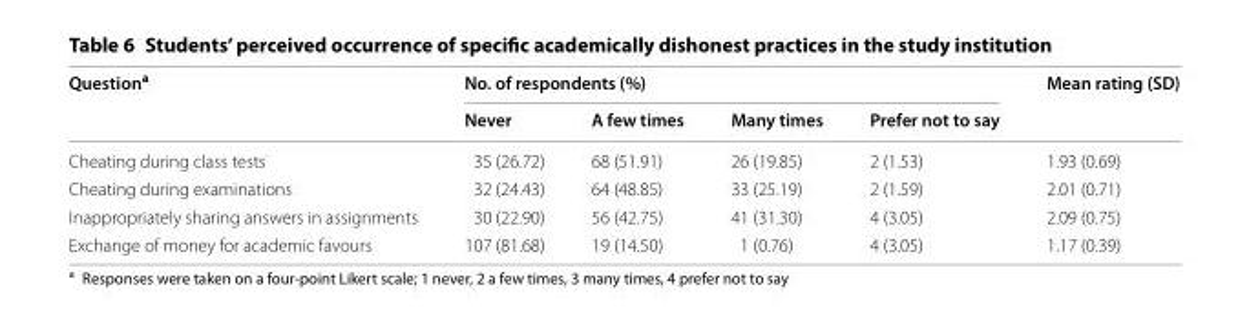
<table><thead><tr><td rowspan="2">Question<sup>a</sup></td><td colspan="4">No. of respondents (%)</td><td rowspan="2">Mean rating (SD)</td></tr><tr><td>Never</td><td>A few times</td><td>Many times</td><td>Prefer not to say</td></tr></thead><tbody><tr><td>Cheating during class tests</td><td>35 (26.72)</td><td>68 (51.91)</td><td>26 (19.85)</td><td>2 (1.53)</td><td>1.93 (0.69)</td></tr><tr><td>Cheating during examinations</td><td>32 (24.43)</td><td>64 (48.85)</td><td>33 (25.19)</td><td>2 (1.59)</td><td>2.01 (0.71)</td></tr><tr><td>Inappropriately sharing answers in assignments</td><td>30 (22.90)</td><td>56 (42.75)</td><td>41 (31.30)</td><td>4 (3.05)</td><td>2.09 (0.75)</td></tr><tr><td>Exchange of money for academic favours</td><td>107 (81.68)</td><td>19 (14.50)</td><td>1 (0.76)</td><td>4 (3.05)</td><td>1.17 (0.39)</td></tr></tbody></table>